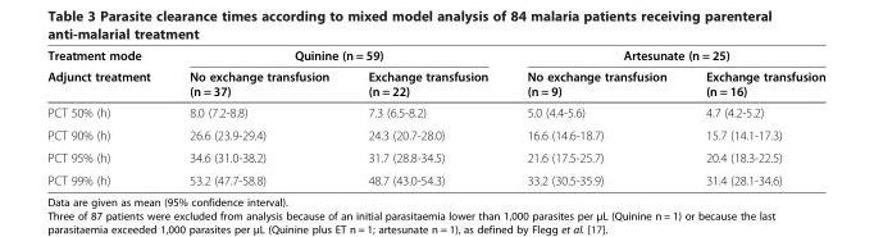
<table><thead><tr><td rowspan="2">Treatment mode Adjunct treatment</td><td colspan="2">Quinine (n = 59)</td><td colspan="2">Artesunate (n = 25)</td></tr><tr><td>No exchange transfusion (n = 37)</td><td>Exchange transfusion (n = 22)</td><td>No exchange transfusion (n = 9)</td><td>Exchange transfusion (n = 16)</td></tr></thead><tbody><tr><td>PCT 50% (h)</td><td>8.0 (7.2-8.8)</td><td>7.3 (6.5-8.2)</td><td>5.0 (4.4-5.6)</td><td>4.7 (4.2-5.2)</td></tr><tr><td>PCT 90% (h)</td><td>26.6 (23.9-29.4)</td><td>24.3 (20.7-28.0)</td><td>16.6 (14.6-18.7)</td><td>15.7 (14.1-17.3)</td></tr><tr><td>PCT 95% (h)</td><td>34.6 (31.0-38.2)</td><td>31.7 (28.8-34.5)</td><td>21.6 (17.5-25.7)</td><td>20.4 (18.3-22.5)</td></tr><tr><td>PCT 99% (h)</td><td>53.2 (47.7-58.8)</td><td>48.7 (43.0-54.3)</td><td>33.2 (30.5-35.9)</td><td>31.4 (28.1-34.6)</td></tr></tbody></table>